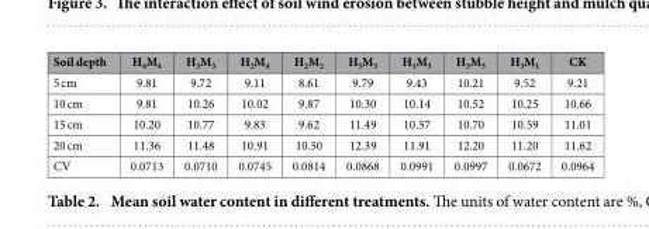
<table><thead><tr><td>Soil depth</td><td>H<sub>4</sub>M<sub>4</sub></td><td>H<sub>3</sub>M<sub>3</sub></td><td>H<sub>2</sub>M<sub>4</sub></td><td>H<sub>2</sub>M<sub>2</sub></td><td>H<sub>5</sub>M<sub>3</sub></td><td>H<sub>1</sub>M<sub>3</sub></td><td>H<sub>3</sub>M<sub>5</sub></td><td>H<sub>3</sub>M<sub>1</sub></td><td>CK</td></tr></thead><tbody><tr><td>5 cm</td><td>9.81</td><td>9.72</td><td>9.11</td><td>8.61</td><td>9.79</td><td>9.43</td><td>10.21</td><td>9.52</td><td>9.21</td></tr><tr><td>10 cm</td><td>9.81</td><td>10.26</td><td>10.02</td><td>9.87</td><td>10.30</td><td>10.14</td><td>10.52</td><td>10.25</td><td>10.66</td></tr><tr><td>15 cm</td><td>10.20</td><td>10.77</td><td>9.83</td><td>9.62</td><td>11.49</td><td>10.57</td><td>10.70</td><td>10.59</td><td>11.01</td></tr><tr><td>20 cm</td><td>11.36</td><td>11.48</td><td>10.91</td><td>10.50</td><td>12.39</td><td>11.91</td><td>12.20</td><td>11.20</td><td>11.62</td></tr><tr><td>CV</td><td>0.0713</td><td>0.0710</td><td>0.0745</td><td>0.0814</td><td>0.0868</td><td>0.0991</td><td>0.0997</td><td>0.0672</td><td>0.0964</td></tr></tbody></table>